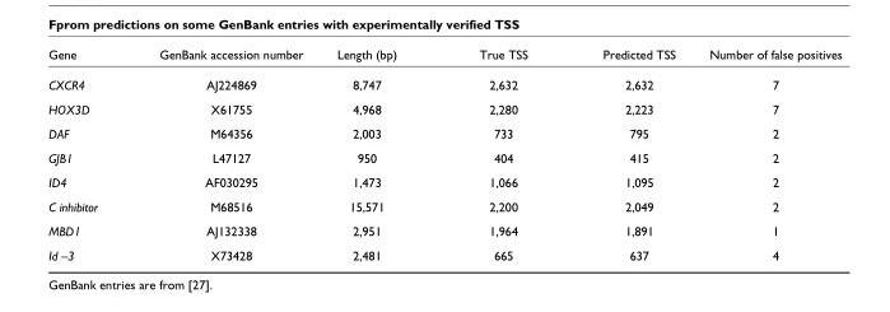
<table><thead><tr><td>Gene</td><td>GenBank accession number</td><td>Length (bp)</td><td>True TSS</td><td>Predicted TSS</td><td>Number of false positives</td></tr></thead><tbody><tr><td>CXCR4</td><td>AJ224869</td><td>8,747</td><td>2,632</td><td>2,632</td><td>7</td></tr><tr><td>HOX3D</td><td>X61755</td><td>4,968</td><td>2,280</td><td>2,223</td><td>7</td></tr><tr><td>DAF</td><td>M64356</td><td>2,003</td><td>733</td><td>795</td><td>2</td></tr><tr><td>GJB1</td><td>L47127</td><td>950</td><td>404</td><td>415</td><td>2</td></tr><tr><td>ID4</td><td>AF030295</td><td>1,473</td><td>1,066</td><td>1,095</td><td>2</td></tr><tr><td>C inhibitor</td><td>M68516</td><td>15,571</td><td>2,200</td><td>2,049</td><td>2</td></tr><tr><td>MBD1</td><td>AJ132338</td><td>2,951</td><td>1,964</td><td>1,891</td><td>1</td></tr><tr><td>Id –3</td><td>X73428</td><td>2,481</td><td>665</td><td>637</td><td>4</td></tr></tbody></table>